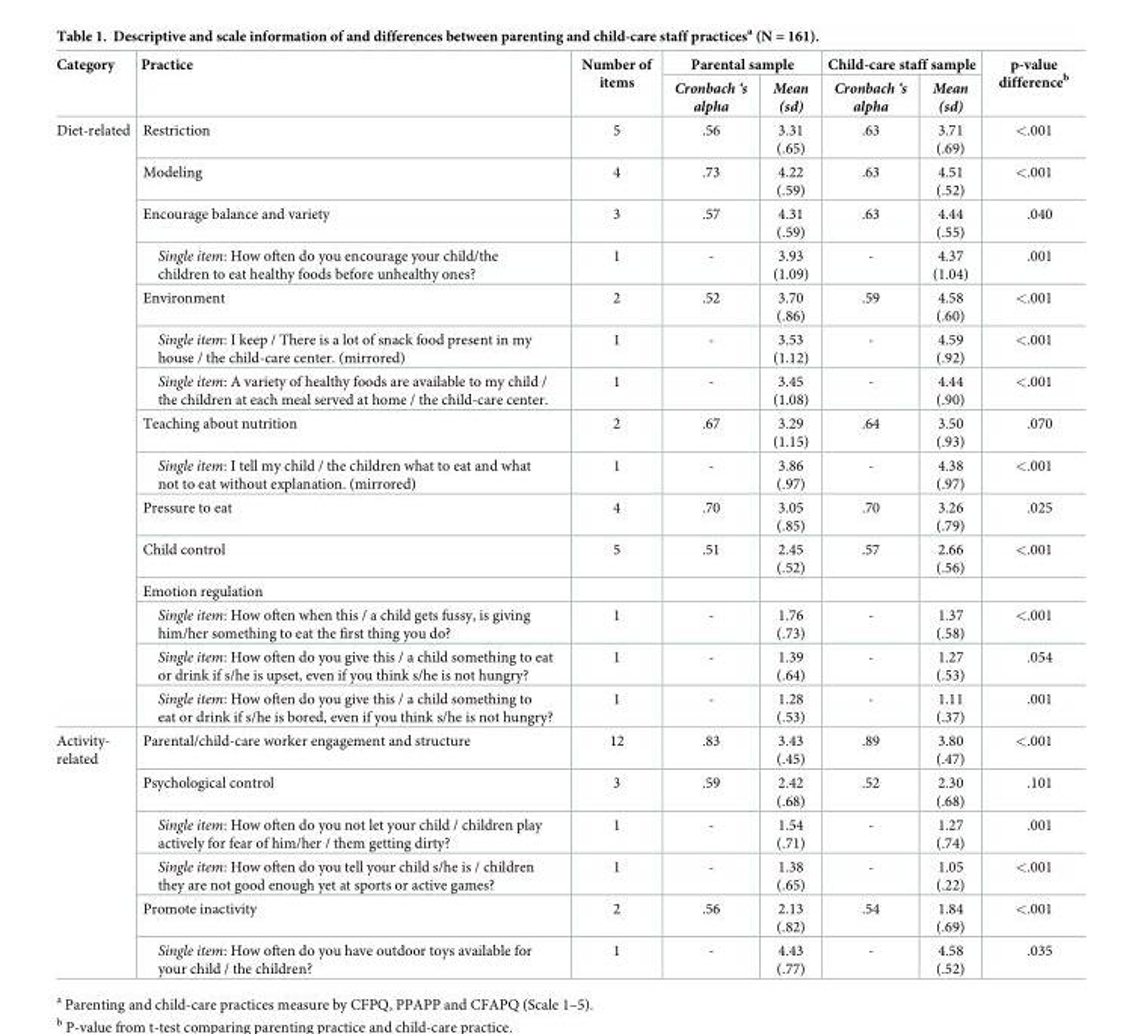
<table><thead><tr><td rowspan="2">Category</td><td rowspan="2">Practice</td><td rowspan="2">Number of items</td><td colspan="2">Parental sample</td><td colspan="2">Child-care staff sample</td><td rowspan="2">p-value difference<sup>b</sup></td></tr><tr><td>Cronbach ‘s alpha</td><td>Mean (sd)</td><td>Cronbach ‘s alpha</td><td>Mean (sd)</td></tr></thead><tbody><tr><td rowspan="15">Diet-related</td><td>Restriction</td><td>5</td><td>.56</td><td>3.31 (.65)</td><td>.63</td><td>3.71 (.69)</td><td>&lt;.001</td></tr><tr><td>Modeling</td><td>4</td><td>.73</td><td>4.22 (.59)</td><td>.63</td><td>4.51 (.52)</td><td>&lt;.001</td></tr><tr><td>Encourage balance and variety</td><td>3</td><td>.57</td><td>4.31 (.59)</td><td>.63</td><td>4.44 (.55)</td><td>.040</td></tr><tr><td>Single item: How often do you encourage your child/the children to eat healthy foods before unhealthy ones?</td><td>1</td><td>-</td><td>3.93 (1.09)</td><td>-</td><td>4.37 (1.04)</td><td>.001</td></tr><tr><td>Environment</td><td>2</td><td>.52</td><td>3.70 (.86)</td><td>.59</td><td>4.58 (.60)</td><td>&lt;.001</td></tr><tr><td>Single item: I keep / There is a lot of snack food present in my house / the child-care center. (mirrored)</td><td>1</td><td>-</td><td>3.53 (1.12)</td><td>-</td><td>4.59 (.92)</td><td>&lt;.001</td></tr><tr><td>Single item: A variety of healthy foods are available to my child / the children at each meal served at home / the child-care center.</td><td>1</td><td>-</td><td>3.45 (1.08)</td><td>-</td><td>4.44 (.90)</td><td>&lt;.001</td></tr><tr><td>Teaching about nutrition</td><td>2</td><td>.67</td><td>3.29 (1.15)</td><td>.64</td><td>3.50 (.93)</td><td>.070</td></tr><tr><td>Single item: I tell my child / the children what to eat and what not to eat without explanation. (mirrored)</td><td>1</td><td>-</td><td>3.86 (.97)</td><td>-</td><td>4.38 (.97)</td><td>&lt;.001</td></tr><tr><td>Pressure to eat</td><td>4</td><td>.70</td><td>3.05 (.85)</td><td>.70</td><td>3.26 (.79)</td><td>.025</td></tr><tr><td>Child control</td><td>5</td><td>.51</td><td>2.45 (.52)</td><td>.57</td><td>2.66 (.56)</td><td>&lt;.001</td></tr><tr><td>Emotion regulation</td><td></td><td></td><td></td><td></td><td></td><td></td></tr><tr><td>Single item: How often when this / a child gets fussy, is giving him/her something to eat the first thing you do?</td><td>1</td><td>-</td><td>1.76 (.73)</td><td>-</td><td>1.37 (.58)</td><td>&lt;.001</td></tr><tr><td>Single item: How often do you give this / a child something to eat or drink if s/he is upset, even if you think s/he is not hungry?</td><td>1</td><td>-</td><td>1.39 (.64)</td><td>-</td><td>1.27 (.53)</td><td>.054</td></tr><tr><td>Single item: How often do you give this / a child something to eat or drink if s/he is bored, even if you think s/he is not hungry?</td><td>1</td><td>-</td><td>1.28 (.53)</td><td>-</td><td>1.11 (.37)</td><td>.001</td></tr><tr><td rowspan="6">Activity- related</td><td>Parental/child-care worker engagement and structure</td><td>12</td><td>.83</td><td>3.43 (.45)</td><td>.89</td><td>3.80 (.47)</td><td>&lt;.001</td></tr><tr><td>Psychological control</td><td>3</td><td>.59</td><td>2.42 (.68)</td><td>.52</td><td>2.30 (.68)</td><td>.101</td></tr><tr><td>Single item: How often do you not let your child / children play actively for fear of him/her / them getting dirty?</td><td>1</td><td>-</td><td>1.54 (.71)</td><td>-</td><td>1.27 (.74)</td><td>.001</td></tr><tr><td>Single item: How often do you tell your child s/he is / children they are not good enough yet at sports or active games?</td><td>1</td><td>-</td><td>1.38 (.65)</td><td>-</td><td>1.05 (.22)</td><td>&lt;.001</td></tr><tr><td>Promote inactivity</td><td>2</td><td>.56</td><td>2.13 (.82)</td><td>.54</td><td>1.84 (.69)</td><td>&lt;.001</td></tr><tr><td>Single item: How often do you have outdoor toys available for your child / the children?</td><td>1</td><td>-</td><td>4.43 (.77)</td><td>-</td><td>4.58 (.52)</td><td>.035</td></tr></tbody></table>